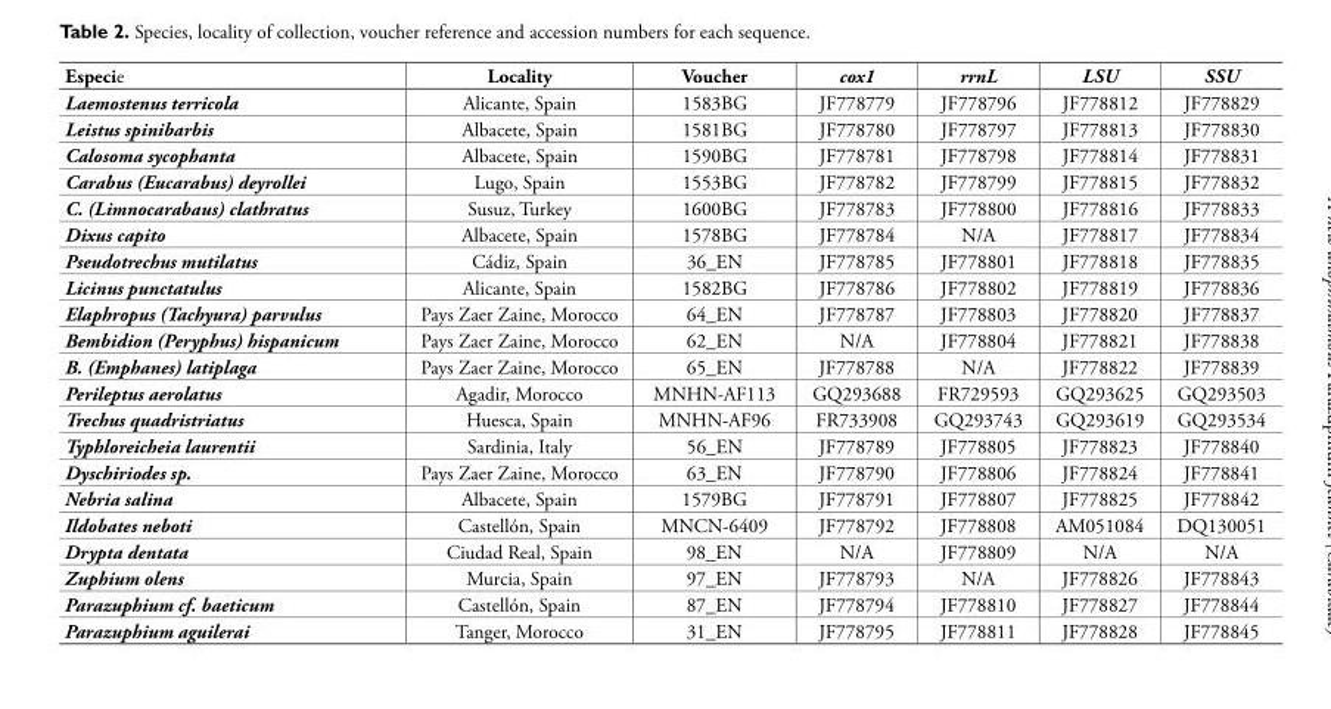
<table><thead><tr><td>Especie</td><td>Locality</td><td>Voucher</td><td>cox1</td><td>rrnL</td><td>LSU</td><td>SSU</td></tr></thead><tbody><tr><td>Laemostenus terricola</td><td>Alicante, Spain</td><td>1583BG</td><td>JF778779</td><td>JF778796</td><td>JF778812</td><td>JF778829</td></tr><tr><td>Leistus spinibarbis</td><td>Albacete, Spain</td><td>1581BG</td><td>JF778780</td><td>JF778797</td><td>JF778813</td><td>JF778830</td></tr><tr><td>Calosoma sycophanta</td><td>Albacete, Spain</td><td>1590BG</td><td>JF778781</td><td>JF778798</td><td>JF778814</td><td>JF778831</td></tr><tr><td>Carabus (Eucarabus) deyrollei</td><td>Lugo, Spain</td><td>1553BG</td><td>JF778782</td><td>JF778799</td><td>JF778815</td><td>JF778832</td></tr><tr><td>C. (Limnocarabaus) clathratus</td><td>Susuz, Turkey</td><td>1600BG</td><td>JF778783</td><td>JF778800</td><td>JF778816</td><td>JF778833</td></tr><tr><td>Dixus capito</td><td>Albacete, Spain</td><td>1578BG</td><td>JF778784</td><td>N/A</td><td>JF778817</td><td>JF778834</td></tr><tr><td>Pseudotrechus mutilatus</td><td>Cádiz, Spain</td><td>36_EN</td><td>JF778785</td><td>JF778801</td><td>JF778818</td><td>JF778835</td></tr><tr><td>Licinus punctatulus</td><td>Alicante, Spain</td><td>1582BG</td><td>JF778786</td><td>JF778802</td><td>JF778819</td><td>JF778836</td></tr><tr><td>Elaphropus (Tachyura) parvulus</td><td>Pays Zaer Zaine, Morocco</td><td>64_EN</td><td>JF778787</td><td>JF778803</td><td>JF778820</td><td>JF778837</td></tr><tr><td>Bembidion (Peryphus) hispanicum</td><td>Pays Zaer Zaine, Morocco</td><td>62_EN</td><td>N/A</td><td>JF778804</td><td>JF778821</td><td>JF778838</td></tr><tr><td>B. (Emphanes) latiplaga</td><td>Pays Zaer Zaine, Morocco</td><td>65_EN</td><td>JF778788</td><td>N/A</td><td>JF778822</td><td>JF778839</td></tr><tr><td>Perileptus aerolatus</td><td>Agadir, Morocco</td><td>MNHN-AF113</td><td>GQ293688</td><td>FR729593</td><td>GQ293625</td><td>GQ293503</td></tr><tr><td>Trechus quadristriatus</td><td>Huesca, Spain</td><td>MNHN-AF96</td><td>FR733908</td><td>GQ293743</td><td>GQ293619</td><td>GQ293534</td></tr><tr><td>Typhloreicheia laurentii</td><td>Sardinia, Italy</td><td>56_EN</td><td>JF778789</td><td>JF778805</td><td>JF778823</td><td>JF778840</td></tr><tr><td>Dyschiriodes sp.</td><td>Pays Zaer Zaine, Morocco</td><td>63_EN</td><td>JF778790</td><td>JF778806</td><td>JF778824</td><td>JF778841</td></tr><tr><td>Nebria salina</td><td>Albacete, Spain</td><td>1579BG</td><td>JF778791</td><td>JF778807</td><td>JF778825</td><td>JF778842</td></tr><tr><td>Ildobates neboti</td><td>Castellón, Spain</td><td>MNCN-6409</td><td>JF778792</td><td>JF778808</td><td>AM051084</td><td>DQ130051</td></tr><tr><td>Drypta dentata</td><td>Ciudad Real, Spain</td><td>98_EN</td><td>N/A</td><td>JF778809</td><td>N/A</td><td>N/A</td></tr><tr><td>Zuphium olens</td><td>Murcia, Spain</td><td>97_EN</td><td>JF778793</td><td>N/A</td><td>JF778826</td><td>JF778843</td></tr><tr><td>Parazuphium cf. baeticum</td><td>Castellón, Spain</td><td>87_EN</td><td>JF778794</td><td>JF778810</td><td>JF778827</td><td>JF778844</td></tr><tr><td>Parazuphium aguilerai</td><td>Tanger, Morocco</td><td>31_EN</td><td>JF778795</td><td>JF778811</td><td>JF778828</td><td>JF778845</td></tr></tbody></table>